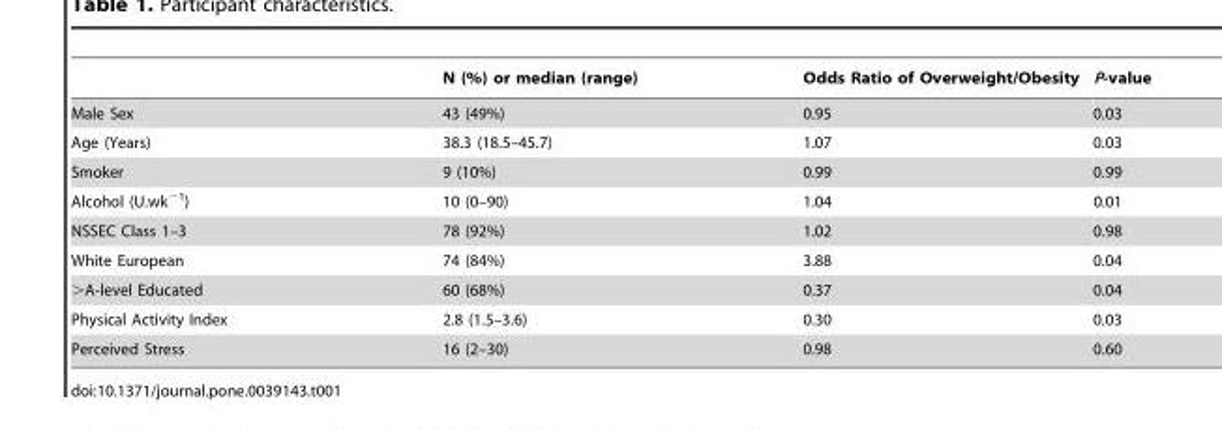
<table><thead><tr><td></td><td>N (%) or median (range)</td><td>Odds Ratio of Overweight/Obesity</td><td>P-value</td></tr></thead><tbody><tr><td>Male Sex</td><td>43 (49%)</td><td>0.95</td><td>0.03</td></tr><tr><td>Age (Years)</td><td>38.3 (18.5–45.7)</td><td>1.07</td><td>0.03</td></tr><tr><td>Smoker</td><td>9 (10%)</td><td>0.99</td><td>0.99</td></tr><tr><td>Alcohol (U.wk<sup>−1</sup>)</td><td>10 (0–90)</td><td>1.04</td><td>0.01</td></tr><tr><td>NSSEC Class 1–3</td><td>78 (92%)</td><td>1.02</td><td>0.98</td></tr><tr><td>White European</td><td>74 (84%)</td><td>3.88</td><td>0.04</td></tr><tr><td>&gt;A-level Educated</td><td>60 (68%)</td><td>0.37</td><td>0.04</td></tr><tr><td>Physical Activity Index</td><td>2.8 (1.5–3.6)</td><td>0.30</td><td>0.03</td></tr><tr><td>Perceived Stress</td><td>16 (2–30)</td><td>0.98</td><td>0.60</td></tr></tbody></table>